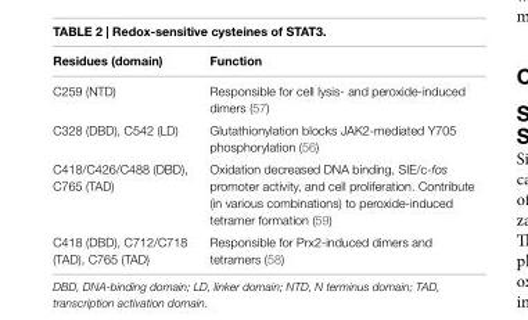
<table><thead><tr><td>Residues (domain)</td><td>Function</td></tr></thead><tbody><tr><td>C259 (NTD)</td><td>Responsible for cell lysis- and peroxide-induced dimers (57)</td></tr><tr><td>C328 (DBD), C542 (LD)</td><td>Glutathionylation blocks JAK2-mediated Y705 phosphorylation (56)</td></tr><tr><td>C418/C426/C488 (DBD), C765 (TAD)</td><td>Oxidation decreased DNA binding, SIE/c-fos promoter activity, and cell proliferation. Contribute (in various combinations) to peroxide-induced tetramer formation (59)</td></tr><tr><td>C418 (DBD), C712/C718 (TAD), C765 (TAD)</td><td>Responsible for Prx2-induced dimers and tetramers (58)</td></tr></tbody></table>